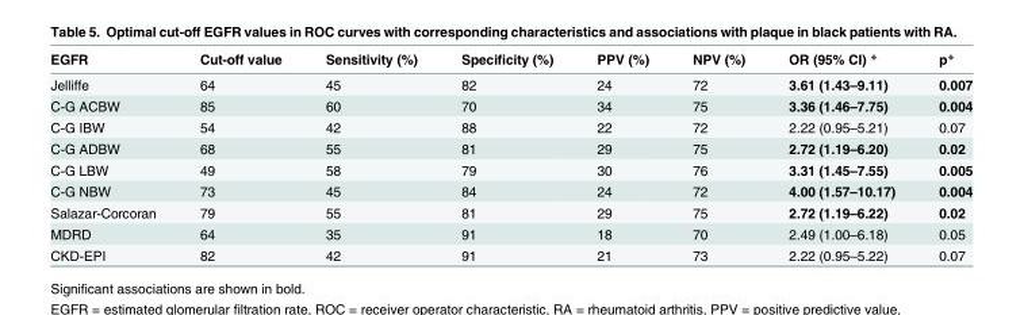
<table><thead><tr><td>EGFR</td><td>Cut-off value</td><td>Sensitivity (%)</td><td>Specificity (%)</td><td>PPV (%)</td><td>NPV (%)</td><td>OR (95% CI) *</td><td>p*</td></tr></thead><tbody><tr><td>Jelliffe</td><td>64</td><td>45</td><td>82</td><td>24</td><td>72</td><td>3.61 (1.43–9.11)</td><td>0.007</td></tr><tr><td>C-G ACBW</td><td>85</td><td>60</td><td>70</td><td>34</td><td>75</td><td>3.36 (1.46–7.75)</td><td>0.004</td></tr><tr><td>C-G IBW</td><td>54</td><td>42</td><td>88</td><td>22</td><td>72</td><td>2.22 (0.95–5.21)</td><td>0.07</td></tr><tr><td>C-G ADBW</td><td>68</td><td>55</td><td>81</td><td>29</td><td>75</td><td>2.72 (1.19–6.20)</td><td>0.02</td></tr><tr><td>C-G LBW</td><td>49</td><td>58</td><td>79</td><td>30</td><td>76</td><td>3.31 (1.45–7.55)</td><td>0.005</td></tr><tr><td>C-G NBW</td><td>73</td><td>45</td><td>84</td><td>24</td><td>72</td><td>4.00 (1.57–10.17)</td><td>0.004</td></tr><tr><td>Salazar-Corcoran</td><td>79</td><td>55</td><td>81</td><td>29</td><td>75</td><td>2.72 (1.19–6.22)</td><td>0.02</td></tr><tr><td>MDRD</td><td>64</td><td>35</td><td>91</td><td>18</td><td>70</td><td>2.49 (1.00–6.18)</td><td>0.05</td></tr><tr><td>CKD-EPI</td><td>82</td><td>42</td><td>91</td><td>21</td><td>73</td><td>2.22 (0.95–5.22)</td><td>0.07</td></tr></tbody></table>